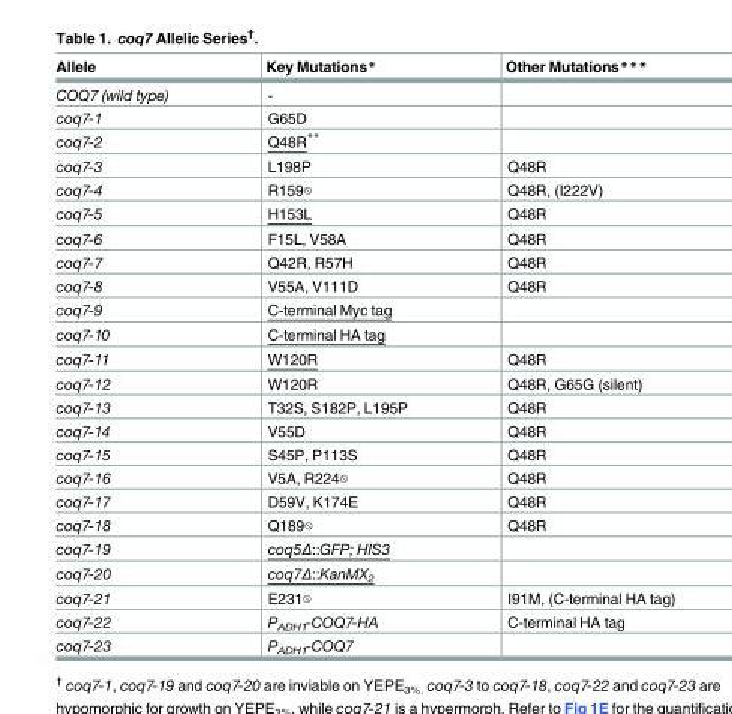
<table><thead><tr><td>Allele</td><td>Key Mutations*</td><td>Other Mutations***</td></tr></thead><tbody><tr><td>COQ7 (wild type)</td><td>-</td><td></td></tr><tr><td>coq7-1</td><td>G65D</td><td></td></tr><tr><td>coq7-2</td><td>Q48R**</td><td></td></tr><tr><td>coq7-3</td><td>L198P</td><td>Q48R</td></tr><tr><td>coq7-4</td><td>R159⦸</td><td>Q48R, (I222V)</td></tr><tr><td>coq7-5</td><td>H153L</td><td>Q48R</td></tr><tr><td>coq7-6</td><td>F15L, V58A</td><td>Q48R</td></tr><tr><td>coq7-7</td><td>Q42R, R57H</td><td>Q48R</td></tr><tr><td>coq7-8</td><td>V55A, V111D</td><td>Q48R</td></tr><tr><td>coq7-9</td><td>C-terminal Myc tag</td><td></td></tr><tr><td>coq7-10</td><td>C-terminal HA tag</td><td></td></tr><tr><td>coq7-11</td><td>W120R</td><td>Q48R</td></tr><tr><td>coq7-12</td><td>W120R</td><td>Q48R, G65G (silent)</td></tr><tr><td>coq7-13</td><td>T32S, S182P, L195P</td><td>Q48R</td></tr><tr><td>coq7-14</td><td>V55D</td><td>Q48R</td></tr><tr><td>coq7-15</td><td>S45P, P113S</td><td>Q48R</td></tr><tr><td>coq7-16</td><td>V5A, R224⦸</td><td>Q48R</td></tr><tr><td>coq7-17</td><td>D59V, K174E</td><td>Q48R</td></tr><tr><td>coq7-18</td><td>Q189⦸</td><td>Q48R</td></tr><tr><td>coq7-19</td><td>coq5Δ::GFP; HIS3</td><td></td></tr><tr><td>coq7-20</td><td>coq7Δ::KanMX<sub>2</sub></td><td></td></tr><tr><td>coq7-21</td><td>E231⦸</td><td>I91M, (C-terminal HA tag)</td></tr><tr><td>coq7-22</td><td>P<sub>ADH1</sub>-COQ7-HA</td><td>C-terminal HA tag</td></tr><tr><td>coq7-23</td><td>P<sub>ADH1</sub>-COQ7</td><td></td></tr></tbody></table>